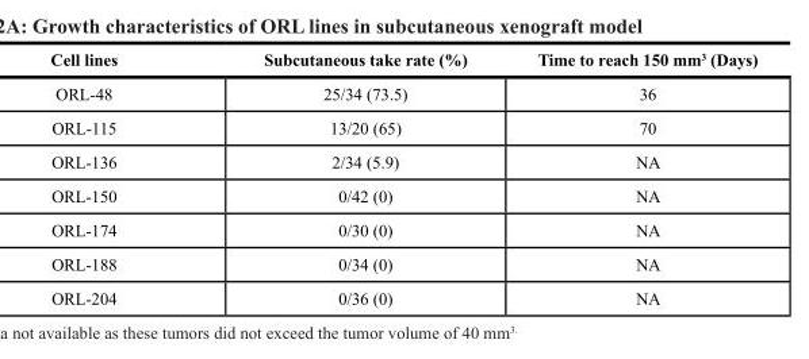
<table><thead><tr><td>Cell lines</td><td>Subcutaneous take rate (%)</td><td>Time to reach 150 mm<sup>3</sup> (Days)</td></tr></thead><tbody><tr><td>ORL-48</td><td>25/34 (73.5)</td><td>36</td></tr><tr><td>ORL-115</td><td>13/20 (65)</td><td>70</td></tr><tr><td>ORL-136</td><td>2/34 (5.9)</td><td>NA</td></tr><tr><td>ORL-150</td><td>0/42 (0)</td><td>NA</td></tr><tr><td>ORL-174</td><td>0/30 (0)</td><td>NA</td></tr><tr><td>ORL-188</td><td>0/34 (0)</td><td>NA</td></tr><tr><td>ORL-204</td><td>0/36 (0)</td><td>NA</td></tr></tbody></table>